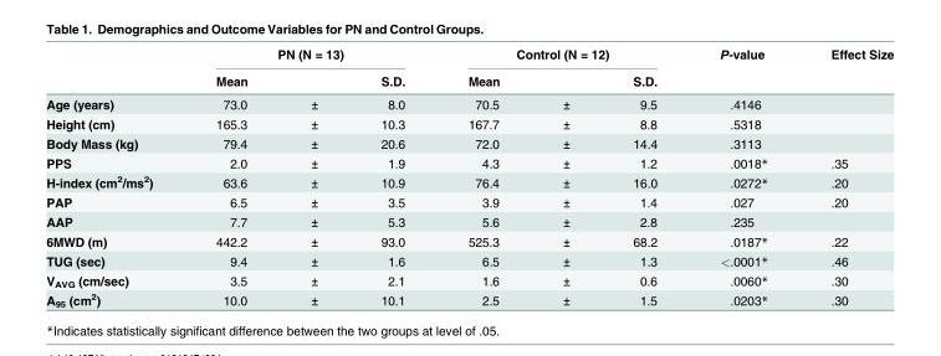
<table><thead><tr><td rowspan="2"></td><td colspan="3">PN (N = 13)</td><td colspan="3">Control (N = 12)</td><td rowspan="2">P-value</td><td rowspan="2">Effect Size</td></tr><tr><td>Mean</td><td></td><td>S.D.</td><td>Mean</td><td></td><td>S.D.</td></tr></thead><tbody><tr><td>Age (years)</td><td>73.0</td><td>±</td><td>8.0</td><td>70.5</td><td>±</td><td>9.5</td><td>.4146</td><td></td></tr><tr><td>Height (cm)</td><td>165.3</td><td>±</td><td>10.3</td><td>167.7</td><td>±</td><td>8.8</td><td>.5318</td><td></td></tr><tr><td>Body Mass (kg)</td><td>79.4</td><td>±</td><td>20.6</td><td>72.0</td><td>±</td><td>14.4</td><td>.3113</td><td></td></tr><tr><td>PPS</td><td>2.0</td><td>±</td><td>1.9</td><td>4.3</td><td>±</td><td>1.2</td><td>.0018*</td><td>.35</td></tr><tr><td>H-index (cm<sup>2</sup>/ms<sup>2</sup>)</td><td>63.6</td><td>±</td><td>10.9</td><td>76.4</td><td>±</td><td>16.0</td><td>.0272*</td><td>.20</td></tr><tr><td>PAP</td><td>6.5</td><td>±</td><td>3.5</td><td>3.9</td><td>±</td><td>1.4</td><td>.027</td><td>.20</td></tr><tr><td>AAP</td><td>7.7</td><td>±</td><td>5.3</td><td>5.6</td><td>±</td><td>2.8</td><td>.235</td><td></td></tr><tr><td>6MWD (m)</td><td>442.2</td><td>±</td><td>93.0</td><td>525.3</td><td>±</td><td>68.2</td><td>.0187*</td><td>.22</td></tr><tr><td>TUG (sec)</td><td>9.4</td><td>±</td><td>1.6</td><td>6.5</td><td>±</td><td>1.3</td><td>&lt;.0001*</td><td>.46</td></tr><tr><td>V<sub>AVG</sub> (cm/sec)</td><td>3.5</td><td>±</td><td>2.1</td><td>1.6</td><td>±</td><td>0.6</td><td>.0060*</td><td>.30</td></tr><tr><td>A<sub>95</sub> (cm<sup>2</sup>)</td><td>10.0</td><td>±</td><td>10.1</td><td>2.5</td><td>±</td><td>1.5</td><td>.0203*</td><td>.30</td></tr></tbody></table>